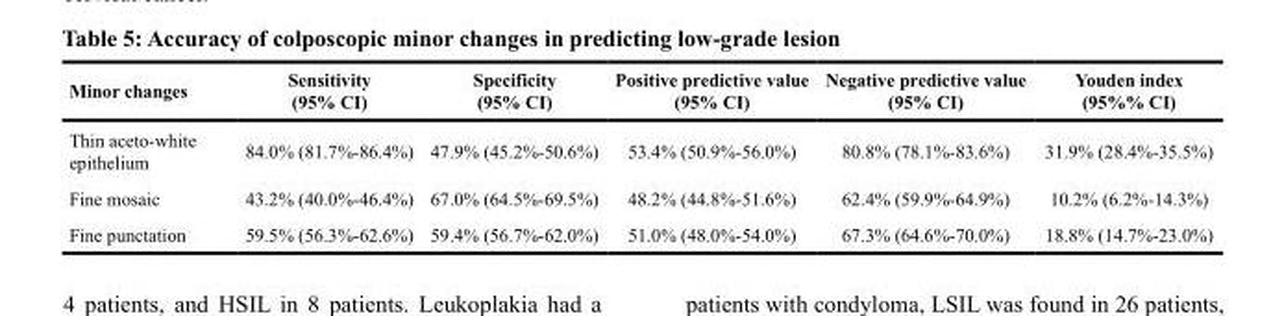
<table><thead><tr><td>Minor changes</td><td>Sensitivity (95% CI)</td><td>Specificity (95% CI)</td><td>Positive predictive value (95% CI)</td><td>Negative predictive value (95% CI)</td><td>Youden index (95%% CI)</td></tr></thead><tbody><tr><td>Thin aceto-white epithelium</td><td>84.0% (81.7%-86.4%)</td><td>47.9% (45.2%-50.6%)</td><td>53.4% (50.9%-56.0%)</td><td>80.8% (78.1%-83.6%)</td><td>31.9% (28.4%-35.5%)</td></tr><tr><td>Fine mosaic</td><td>43.2% (40.0%-46.4%)</td><td>67.0% (64.5%-69.5%)</td><td>48.2% (44.8%-51.6%)</td><td>62.4% (59.9%-64.9%)</td><td>10.2% (6.2%-14.3%)</td></tr><tr><td>Fine punctation</td><td>59.5% (56.3%-62.6%)</td><td>59.4% (56.7%-62.0%)</td><td>51.0% (48.0%-54.0%)</td><td>67.3% (64.6%-70.0%)</td><td>18.8% (14.7%-23.0%)</td></tr></tbody></table>